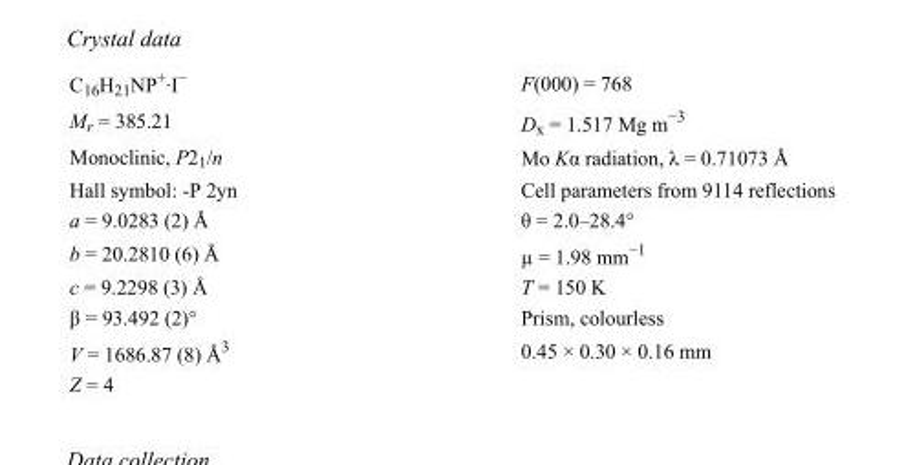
<table><tbody><tr><td>C<sub>16</sub>H<sub>21</sub>NP<sup>+</sup>·I<sup>−</sup></td><td>F(000) = 768</td></tr><tr><td>M<sub>r</sub> = 385.21</td><td>D<sub>x</sub> = 1.517 Mg m<sup>−3</sup></td></tr><tr><td>Monoclinic, P2<sub>1</sub>/n</td><td>Mo Kα radiation, λ = 0.71073 Å</td></tr><tr><td>Hall symbol: -P 2yn</td><td>Cell parameters from 9114 reflections</td></tr><tr><td>a = 9.0283 (2) Å</td><td>θ = 2.0–28.4°</td></tr><tr><td>b = 20.2810 (6) Å</td><td>µ = 1.98 mm<sup>−1</sup></td></tr><tr><td>c = 9.2298 (3) Å</td><td>T = 150 K</td></tr><tr><td>β = 93.492 (2)°</td><td>Prism, colourless</td></tr><tr><td>V = 1686.87 (8) Å<sup>3</sup></td><td>0.45 × 0.30 × 0.16 mm</td></tr><tr><td>Z = 4</td><td></td></tr></tbody></table>